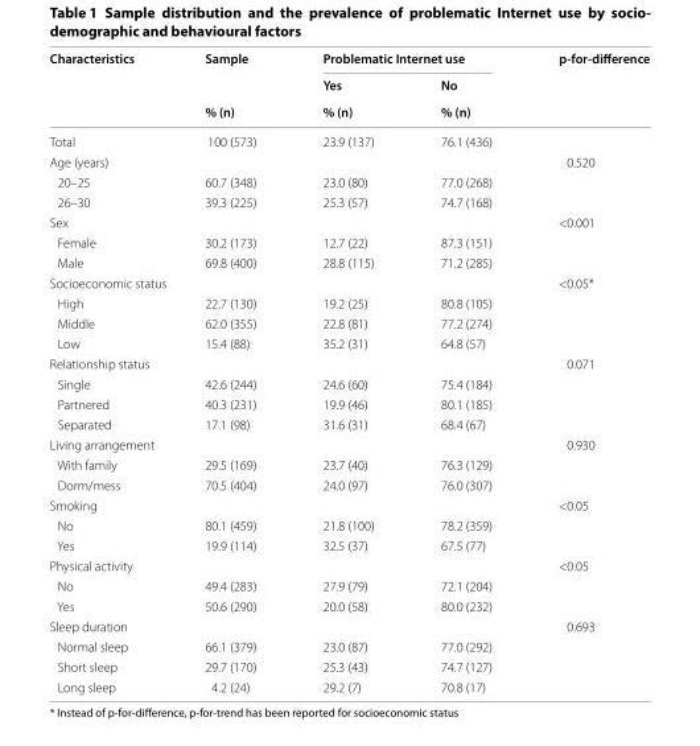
<table><thead><tr><td rowspan="3">Characteristics</td><td rowspan="3">Sample % (n)</td><td colspan="2">Problematic Internet use</td><td rowspan="3">p-for-difference</td></tr><tr><td rowspan="2">Yes % (n)</td><td rowspan="2">No % (n)</td></tr><tr></tr></thead><tbody><tr><td>Total</td><td>100 (573)</td><td>23.9 (137)</td><td>76.1 (436)</td><td></td></tr><tr><td colspan="4">Age (years)</td><td>0.520</td></tr><tr><td>20–25</td><td>60.7 (348)</td><td>23.0 (80)</td><td>77.0 (268)</td><td></td></tr><tr><td>26–30</td><td>39.3 (225)</td><td>25.3 (57)</td><td>74.7 (168)</td><td></td></tr><tr><td colspan="4">Sex</td><td>&lt;0.001</td></tr><tr><td>Female</td><td>30.2 (173)</td><td>12.7 (22)</td><td>87.3 (151)</td><td></td></tr><tr><td>Male</td><td>69.8 (400)</td><td>28.8 (115)</td><td>71.2 (285)</td><td></td></tr><tr><td colspan="4">Socioeconomic status</td><td>&lt;0.05*</td></tr><tr><td>High</td><td>22.7 (130)</td><td>19.2 (25)</td><td>80.8 (105)</td><td></td></tr><tr><td>Middle</td><td>62.0 (355)</td><td>22.8 (81)</td><td>77.2 (274)</td><td></td></tr><tr><td>Low</td><td>15.4 (88)</td><td>35.2 (31)</td><td>64.8 (57)</td><td></td></tr><tr><td colspan="4">Relationship status</td><td>0.071</td></tr><tr><td>Single</td><td>42.6 (244)</td><td>24.6 (60)</td><td>75.4 (184)</td><td></td></tr><tr><td>Partnered</td><td>40.3 (231)</td><td>19.9 (46)</td><td>80.1 (185)</td><td></td></tr><tr><td>Separated</td><td>17.1 (98)</td><td>31.6 (31)</td><td>68.4 (67)</td><td></td></tr><tr><td colspan="4">Living arrangement</td><td>0.930</td></tr><tr><td>With family</td><td>29.5 (169)</td><td>23.7 (40)</td><td>76.3 (129)</td><td></td></tr><tr><td>Dorm/mess</td><td>70.5 (404)</td><td>24.0 (97)</td><td>76.0 (307)</td><td></td></tr><tr><td colspan="4">Smoking</td><td>&lt;0.05</td></tr><tr><td>No</td><td>80.1 (459)</td><td>21.8 (100)</td><td>78.2 (359)</td><td></td></tr><tr><td>Yes</td><td>19.9 (114)</td><td>32.5 (37)</td><td>67.5 (77)</td><td></td></tr><tr><td colspan="4">Physical activity</td><td>&lt;0.05</td></tr><tr><td>No</td><td>49.4 (283)</td><td>27.9 (79)</td><td>72.1 (204)</td><td></td></tr><tr><td>Yes</td><td>50.6 (290)</td><td>20.0 (58)</td><td>80.0 (232)</td><td></td></tr><tr><td colspan="4">Sleep duration</td><td>0.693</td></tr><tr><td>Normal sleep</td><td>66.1 (379)</td><td>23.0 (87)</td><td>77.0 (292)</td><td></td></tr><tr><td>Short sleep</td><td>29.7 (170)</td><td>25.3 (43)</td><td>74.7 (127)</td><td></td></tr><tr><td>Long sleep</td><td>4.2 (24)</td><td>29.2 (7)</td><td>70.8 (17)</td><td></td></tr></tbody></table>